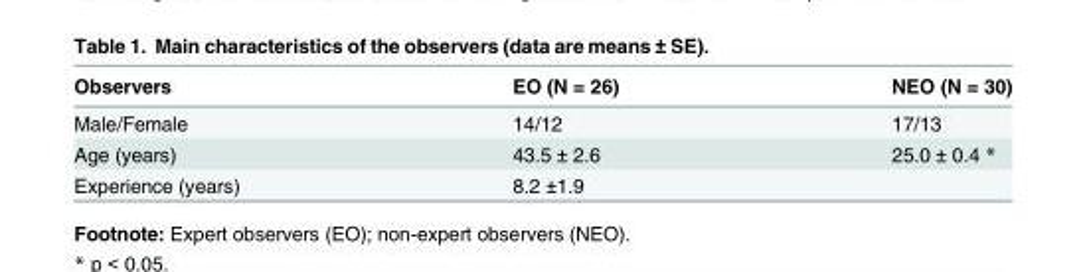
<table><thead><tr><td>Observers</td><td>EO (N = 26)</td><td>NEO (N = 30)</td></tr></thead><tbody><tr><td>Male/Female</td><td>14/12</td><td>17/13</td></tr><tr><td>Age (years)</td><td>43.5 ± 2.6</td><td>25.0 ± 0.4 *</td></tr><tr><td>Experience (years)</td><td>8.2 ±1.9</td><td></td></tr></tbody></table>